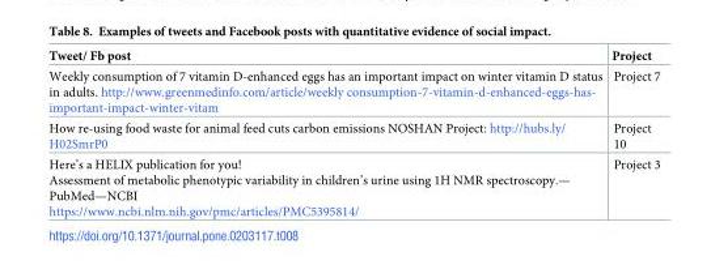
<table><thead><tr><td>Tweet/ Fb post</td><td>Project</td></tr></thead><tbody><tr><td>Weekly consumption of 7 vitamin D-enhanced eggs has an important impact on winter vitamin D status in adults. http://www.greenmedinfo.com/article/weekly consumption-7-vitamin-d-enhanced-eggs-has- important-impact-winter-vitam</td><td>Project 7</td></tr><tr><td>How re-using food waste for animal feed cuts carbon emissions NOSHAN Project: http://hubs.ly/ H02SmrP0</td><td>Project 10</td></tr><tr><td>Here’s a HELIX publication for you! Assessment of metabolic phenotypic variability in children’s urine using 1H NMR spectroscopy.— PubMed—NCBI https://www.ncbi.nlm.nih.gov/pmc/articles/PMC5395814/</td><td>Project 3</td></tr></tbody></table>